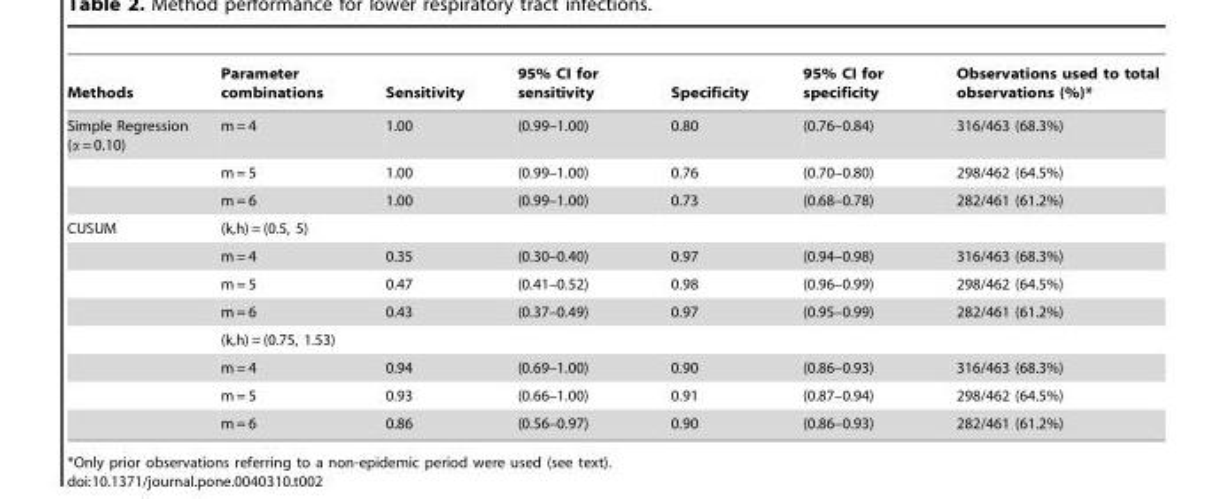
<table><thead><tr><td>Methods</td><td>Parameter combinations</td><td>Sensitivity</td><td>95% CI for sensitivity</td><td>Specificity</td><td>95% CI for specificity</td><td>Observations used to total observations (%)*</td></tr></thead><tbody><tr><td rowspan="3">Simple Regression (α = 0.10)</td><td>m = 4</td><td>1.00</td><td>(0.99–1.00)</td><td>0.80</td><td>(0.76–0.84)</td><td>316/463 (68.3%)</td></tr><tr><td>m = 5</td><td>1.00</td><td>(0.99–1.00)</td><td>0.76</td><td>(0.70–0.80)</td><td>298/462 (64.5%)</td></tr><tr><td>m = 6</td><td>1.00</td><td>(0.99–1.00)</td><td>0.73</td><td>(0.68–0.78)</td><td>282/461 (61.2%)</td></tr><tr><td rowspan="8">CUSUM</td><td>(k,h) = (0.5, 5)</td><td></td><td></td><td></td><td></td><td></td></tr><tr><td>m = 4</td><td>0.35</td><td>(0.30–0.40)</td><td>0.97</td><td>(0.94–0.98)</td><td>316/463 (68.3%)</td></tr><tr><td>m = 5</td><td>0.47</td><td>(0.41–0.52)</td><td>0.98</td><td>(0.96–0.99)</td><td>298/462 (64.5%)</td></tr><tr><td>m = 6</td><td>0.43</td><td>(0.37–0.49)</td><td>0.97</td><td>(0.95–0.99)</td><td>282/461 (61.2%)</td></tr><tr><td>(k,h) = (0.75, 1.53)</td><td></td><td></td><td></td><td></td><td></td></tr><tr><td>m = 4</td><td>0.94</td><td>(0.69–1.00)</td><td>0.90</td><td>(0.86–0.93)</td><td>316/463 (68.3%)</td></tr><tr><td>m = 5</td><td>0.93</td><td>(0.66–1.00)</td><td>0.91</td><td>(0.87–0.94)</td><td>298/462 (64.5%)</td></tr><tr><td>m = 6</td><td>0.86</td><td>(0.56–0.97)</td><td>0.90</td><td>(0.86–0.93)</td><td>282/461 (61.2%)</td></tr></tbody></table>